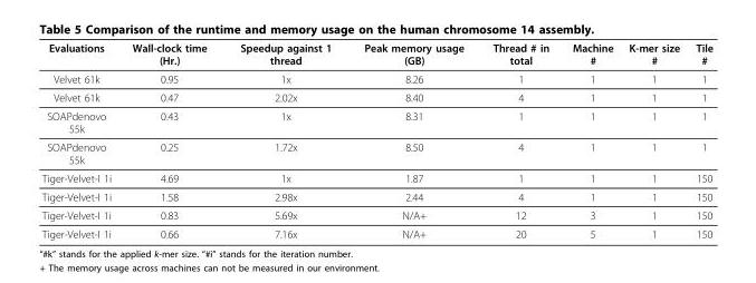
<table><thead><tr><td>Evaluations</td><td>Wall-clock time (Hr.)</td><td>Speedup against 1 thread</td><td>Peak memory usage (GB)</td><td>Thread # in total</td><td>Machine #</td><td>K-mer size #</td><td>Tile #</td></tr></thead><tbody><tr><td>Velvet 61k</td><td>0.95</td><td>1x</td><td>8.26</td><td>1</td><td>1</td><td>1</td><td>1</td></tr><tr><td>Velvet 61k</td><td>0.47</td><td>2.02x</td><td>8.40</td><td>4</td><td>1</td><td>1</td><td>1</td></tr><tr><td>SOAPdenovo 55k</td><td>0.43</td><td>1x</td><td>8.31</td><td>1</td><td>1</td><td>1</td><td>1</td></tr><tr><td>SOAPdenovo 55k</td><td>0.25</td><td>1.72x</td><td>8.50</td><td>4</td><td>1</td><td>1</td><td>1</td></tr><tr><td>Tiger-Velvet-I 1i</td><td>4.69</td><td>1x</td><td>1.87</td><td>1</td><td>1</td><td>1</td><td>150</td></tr><tr><td>Tiger-Velvet-I 1i</td><td>1.58</td><td>2.98x</td><td>2.44</td><td>4</td><td>1</td><td>1</td><td>150</td></tr><tr><td>Tiger-Velvet-I 1i</td><td>0.83</td><td>5.69x</td><td>N/A+</td><td>12</td><td>3</td><td>1</td><td>150</td></tr><tr><td>Tiger-Velvet-I 1i</td><td>0.66</td><td>7.16x</td><td>N/A+</td><td>20</td><td>5</td><td>1</td><td>150</td></tr></tbody></table>